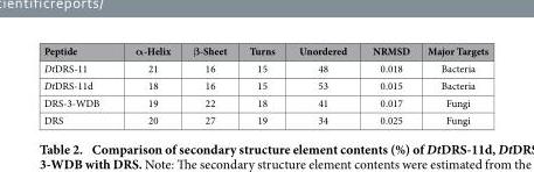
<table><thead><tr><td>Peptide</td><td>α-Helix</td><td>β-Sheet</td><td>Turns</td><td>Unordered</td><td>NRMSD</td><td>Major Targets</td></tr></thead><tbody><tr><td>DtDRS-11</td><td>21</td><td>16</td><td>15</td><td>48</td><td>0.018</td><td>Bacteria</td></tr><tr><td>DtDRS-11d</td><td>18</td><td>16</td><td>15</td><td>53</td><td>0.015</td><td>Bacteria</td></tr><tr><td>DRS-3-WDB</td><td>19</td><td>22</td><td>18</td><td>41</td><td>0.017</td><td>Fungi</td></tr><tr><td>DRS</td><td>20</td><td>27</td><td>19</td><td>34</td><td>0.025</td><td>Fungi</td></tr></tbody></table>